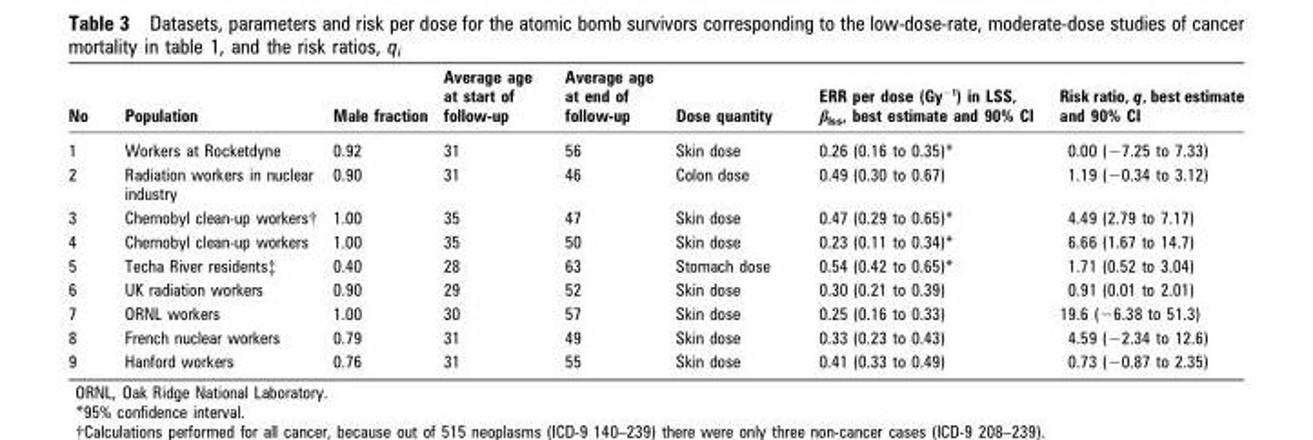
<table><thead><tr><td>No</td><td>Population</td><td>Male fraction</td><td>Average age at start of follow-up</td><td>Average age at end of follow-up</td><td>Dose quantity</td><td>ERR per dose (Gy<sup>−1</sup>) in LSS, β<sub>lss</sub>, best estimate and 90% CI</td><td>Risk ratio, q, best estimate and 90% CI</td></tr></thead><tbody><tr><td>1</td><td>Workers at Rocketdyne</td><td>0.92</td><td>31</td><td>56</td><td>Skin dose</td><td>0.26 (0.16 to 0.35)*</td><td>0.00 (−7.25 to 7.33)</td></tr><tr><td>2</td><td>Radiation workers in nuclear industry</td><td>0.90</td><td>31</td><td>46</td><td>Colon dose</td><td>0.49 (0.30 to 0.67)</td><td>1.19 (−0.34 to 3.12)</td></tr><tr><td>3</td><td>Chernobyl clean-up workers†</td><td>1.00</td><td>35</td><td>47</td><td>Skin dose</td><td>0.47 (0.29 to 0.65)*</td><td>4.49 (2.79 to 7.17)</td></tr><tr><td>4</td><td>Chernobyl clean-up workers</td><td>1.00</td><td>35</td><td>50</td><td>Skin dose</td><td>0.23 (0.11 to 0.34)*</td><td>6.66 (1.67 to 14.7)</td></tr><tr><td>5</td><td>Techa River residents‡</td><td>0.40</td><td>28</td><td>63</td><td>Stomach dose</td><td>0.54 (0.42 to 0.65)*</td><td>1.71 (0.52 to 3.04)</td></tr><tr><td>6</td><td>UK radiation workers</td><td>0.90</td><td>29</td><td>52</td><td>Skin dose</td><td>0.30 (0.21 to 0.39)</td><td>0.91 (0.01 to 2.01)</td></tr><tr><td>7</td><td>ORNL workers</td><td>1.00</td><td>30</td><td>57</td><td>Skin dose</td><td>0.25 (0.16 to 0.33)</td><td>19.6 (−6.38 to 51.3)</td></tr><tr><td>8</td><td>French nuclear workers</td><td>0.79</td><td>31</td><td>49</td><td>Skin dose</td><td>0.33 (0.23 to 0.43)</td><td>4.59 (−2.34 to 12.6)</td></tr><tr><td>9</td><td>Hanford workers</td><td>0.76</td><td>31</td><td>55</td><td>Skin dose</td><td>0.41 (0.33 to 0.49)</td><td>0.73 (−0.87 to 2.35)</td></tr></tbody></table>